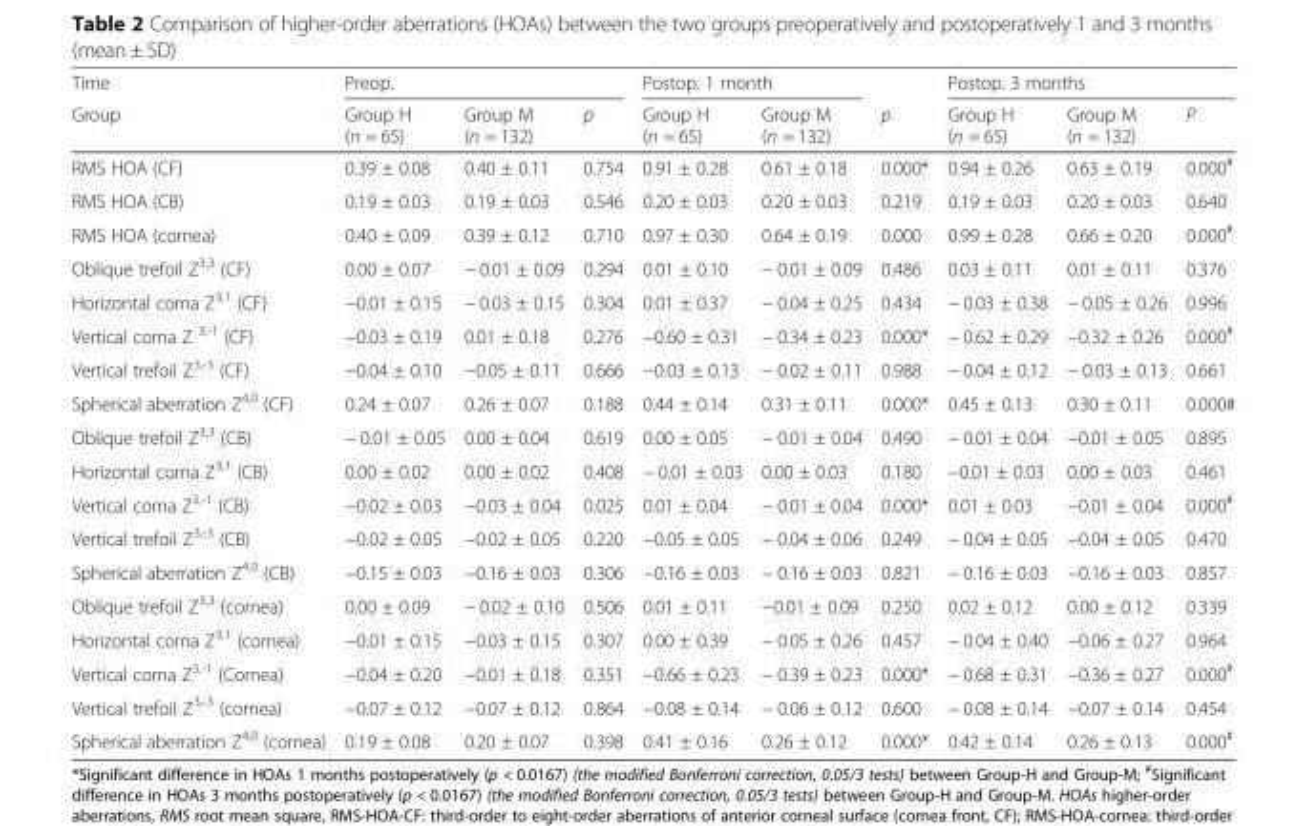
<table><thead><tr><td rowspan="2">Time Group</td><td colspan="3">Preop.</td><td colspan="2">Postop. 1 month</td><td rowspan="2">p</td><td colspan="3">Postop. 3 months</td></tr><tr><td>Group H (n = 65)</td><td>Group M (n = 132)</td><td>p</td><td>Group H (n = 65)</td><td>Group M (n = 132)</td><td>Group H (n = 65)</td><td>Group M (n = 132)</td><td>P</td></tr></thead><tbody><tr><td>RMS HOA (CF)</td><td>0.39 ± 0.08</td><td>0.40 ± 0.11</td><td>0.754</td><td>0.91 ± 0.28</td><td>0.61 ± 0.18</td><td>0.000*</td><td>0.94 ± 0.26</td><td>0.63 ± 0.19</td><td>0.000<sup>#</sup></td></tr><tr><td>RMS HOA (CB)</td><td>0.19 ± 0.03</td><td>0.19 ± 0.03</td><td>0.546</td><td>0.20 ± 0.03</td><td>0.20 ± 0.03</td><td>0.219</td><td>0.19 ± 0.03</td><td>0.20 ± 0.03</td><td>0.640</td></tr><tr><td>RMS HOA (cornea)</td><td>0.40 ± 0.09</td><td>0.39 ± 0.12</td><td>0.710</td><td>0.97 ± 0.30</td><td>0.64 ± 0.19</td><td>0.000</td><td>0.99 ± 0.28</td><td>0.66 ± 0.20</td><td>0.000<sup>#</sup></td></tr><tr><td>Oblique trefoil Z<sup>3,3</sup> (CF)</td><td>0.00 ± 0.07</td><td>− 0.01 ± 0.09</td><td>0.294</td><td>0.01 ± 0.10</td><td>− 0.01 ± 0.09</td><td>0.486</td><td>0.03 ± 0.11</td><td>0.01 ± 0.11</td><td>0.376</td></tr><tr><td>Horizontal coma Z<sup>3,1</sup> (CF)</td><td>−0.01 ± 0.15</td><td>− 0.03 ± 0.15</td><td>0.304</td><td>0.01 ± 0.37</td><td>− 0.04 ± 0.25</td><td>0.434</td><td>− 0.03 ± 0.38</td><td>− 0.05 ± 0.26</td><td>0.996</td></tr><tr><td>Vertical coma Z <sup>3,-1</sup> (CF)</td><td>−0.03 ± 0.19</td><td>0.01 ± 0.18</td><td>0.276</td><td>−0.60 ± 0.31</td><td>− 0.34 ± 0.23</td><td>0.000*</td><td>− 0.62 ± 0.29</td><td>−0.32 ± 0.26</td><td>0.000<sup>#</sup></td></tr><tr><td>Vertical trefoil Z<sup>3,-3</sup> (CF)</td><td>−0.04 ± 0.10</td><td>−0.05 ± 0.11</td><td>0.666</td><td>−0.03 ± 0.13</td><td>− 0.02 ± 0.11</td><td>0.988</td><td>− 0.04 ± 0.12</td><td>− 0.03 ± 0.13</td><td>0.661</td></tr><tr><td>Spherical aberration Z<sup>4,0</sup> (CF)</td><td>0.24 ± 0.07</td><td>0.26 ± 0.07</td><td>0.188</td><td>0.44 ± 0.14</td><td>0.31 ± 0.11</td><td>0.000*</td><td>0.45 ± 0.13</td><td>0.30 ± 0.11</td><td>0.000#</td></tr><tr><td>Oblique trefoil Z<sup>3,3</sup> (CB)</td><td>− 0.01 ± 0.05</td><td>0.00 ± 0.04</td><td>0.619</td><td>0.00 ± 0.05</td><td>− 0.01 ± 0.04</td><td>0.490</td><td>− 0.01 ± 0.04</td><td>−0.01 ± 0.05</td><td>0.895</td></tr><tr><td>Horizontal coma Z<sup>3,1</sup> (CB)</td><td>0.00 ± 0.02</td><td>0.00 ± 0.02</td><td>0.408</td><td>− 0.01 ± 0.03</td><td>0.00 ± 0.03</td><td>0.180</td><td>−0.01 ± 0.03</td><td>0.00 ± 0.03</td><td>0.461</td></tr><tr><td>Vertical coma Z<sup>3,-1</sup> (CB)</td><td>−0.02 ± 0.03</td><td>−0.03 ± 0.04</td><td>0.025</td><td>0.01 ± 0.04</td><td>− 0.01 ± 0.04</td><td>0.000*</td><td>0.01 ± 0.03</td><td>−0.01 ± 0.04</td><td>0.000<sup>#</sup></td></tr><tr><td>Vertical trefoil Z<sup>3,-3</sup> (CB)</td><td>−0.02 ± 0.05</td><td>−0.02 ± 0.05</td><td>0.220</td><td>−0.05 ± 0.05</td><td>− 0.04 ± 0.06</td><td>0.249</td><td>− 0.04 ± 0.05</td><td>−0.04 ± 0.05</td><td>0.470</td></tr><tr><td>Spherical aberration Z<sup>4,0</sup> (CB)</td><td>−0.15 ± 0.03</td><td>−0.16 ± 0.03</td><td>0.306</td><td>−0.16 ± 0.03</td><td>− 0.16 ± 0.03</td><td>0.821</td><td>− 0.16 ± 0.03</td><td>−0.16 ± 0.03</td><td>0.857</td></tr><tr><td>Oblique trefoil Z<sup>3,3</sup> (cornea)</td><td>0.00 ± 0.09</td><td>− 0.02 ± 0.10</td><td>0.506</td><td>0.01 ± 0.11</td><td>−0.01 ± 0.09</td><td>0.250</td><td>0.02 ± 0.12</td><td>0.00 ± 0.12</td><td>0.339</td></tr><tr><td>Horizontal coma Z<sup>3,1</sup> (cornea)</td><td>−0.01 ± 0.15</td><td>−0.03 ± 0.15</td><td>0.307</td><td>0.00 ± 0.39</td><td>− 0.05 ± 0.26</td><td>0.457</td><td>− 0.04 ± 0.40</td><td>−0.06 ± 0.27</td><td>0.964</td></tr><tr><td>Vertical coma Z<sup>3,-1</sup> (Cornea)</td><td>−0.04 ± 0.20</td><td>−0.01 ± 0.18</td><td>0.351</td><td>−0.66 ± 0.23</td><td>− 0.39 ± 0.23</td><td>0.000*</td><td>− 0.68 ± 0.31</td><td>−0.36 ± 0.27</td><td>0.000<sup>#</sup></td></tr><tr><td>Vertical trefoil Z<sup>3,-3</sup> (cornea)</td><td>−0.07 ± 0.12</td><td>−0.07 ± 0.12</td><td>0.864</td><td>−0.08 ± 0.14</td><td>− 0.06 ± 0.12</td><td>0.600</td><td>− 0.08 ± 0.14</td><td>−0.07 ± 0.14</td><td>0.454</td></tr><tr><td>Spherical aberration Z<sup>4,0</sup> (cornea)</td><td>0.19 ± 0.08</td><td>0.20 ± 0.07</td><td>0.398</td><td>0.41 ± 0.16</td><td>0.26 ± 0.12</td><td>0.000*</td><td>0.42 ± 0.14</td><td>0.26 ± 0.13</td><td>0.000<sup>#</sup></td></tr></tbody></table>